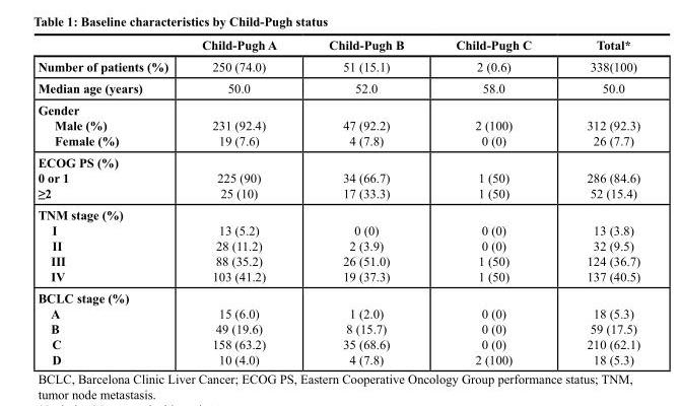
<table><thead><tr><td></td><td>Child-Pugh A</td><td>Child-Pugh B</td><td>Child-Pugh C</td><td>Total*</td></tr></thead><tbody><tr><td>Number of patients (%)</td><td>250 (74.0)</td><td>51 (15.1)</td><td>2 (0.6)</td><td>338(100)</td></tr><tr><td>Median age (years)</td><td>50.0</td><td>52.0</td><td>58.0</td><td>50.0</td></tr><tr><td>Gender Male (%) Female (%)</td><td>231 (92.4) 19 (7.6)</td><td>47 (92.2) 4 (7.8)</td><td>2 (100) 0 (0)</td><td>312 (92.3) 26 (7.7)</td></tr><tr><td>ECOG PS (%) 0 or 1 ≥2</td><td>225 (90) 25 (10)</td><td>34 (66.7) 17 (33.3)</td><td>1 (50) 1 (50)</td><td>286 (84.6) 52 (15.4)</td></tr><tr><td>TNM stage (%) I II III IV</td><td>13 (5.2) 28 (11.2) 88 (35.2) 103 (41.2)</td><td>0 (0) 2 (3.9) 26 (51.0) 19 (37.3)</td><td>0 (0) 0 (0) 1 (50) 1 (50)</td><td>13 (3.8) 32 (9.5) 124 (36.7) 137 (40.5)</td></tr><tr><td>BCLC stage (%) A B C D</td><td>15 (6.0) 49 (19.6) 158 (63.2) 10 (4.0)</td><td>1 (2.0) 8 (15.7) 35 (68.6) 4 (7.8)</td><td>0 (0) 0 (0) 0 (0) 2 (100)</td><td>18 (5.3) 59 (17.5) 210 (62.1) 18 (5.3)</td></tr></tbody></table>